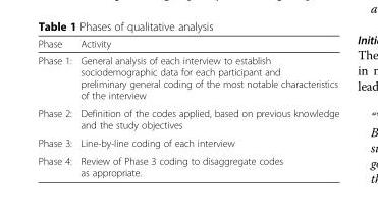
<table><thead><tr><td>Phase</td><td>Activity</td></tr></thead><tbody><tr><td>Phase 1:</td><td>General analysis of each interview to establish sociodemographic data for each participant and preliminary general coding of the most notable characteristics of the interview</td></tr><tr><td>Phase 2:</td><td>Definition of the codes applied, based on previous knowledge and the study objectives</td></tr><tr><td>Phase 3:</td><td>Line-by-line coding of each interview</td></tr><tr><td>Phase 4:</td><td>Review of Phase 3 coding to disaggregate codes as appropriate.</td></tr></tbody></table>